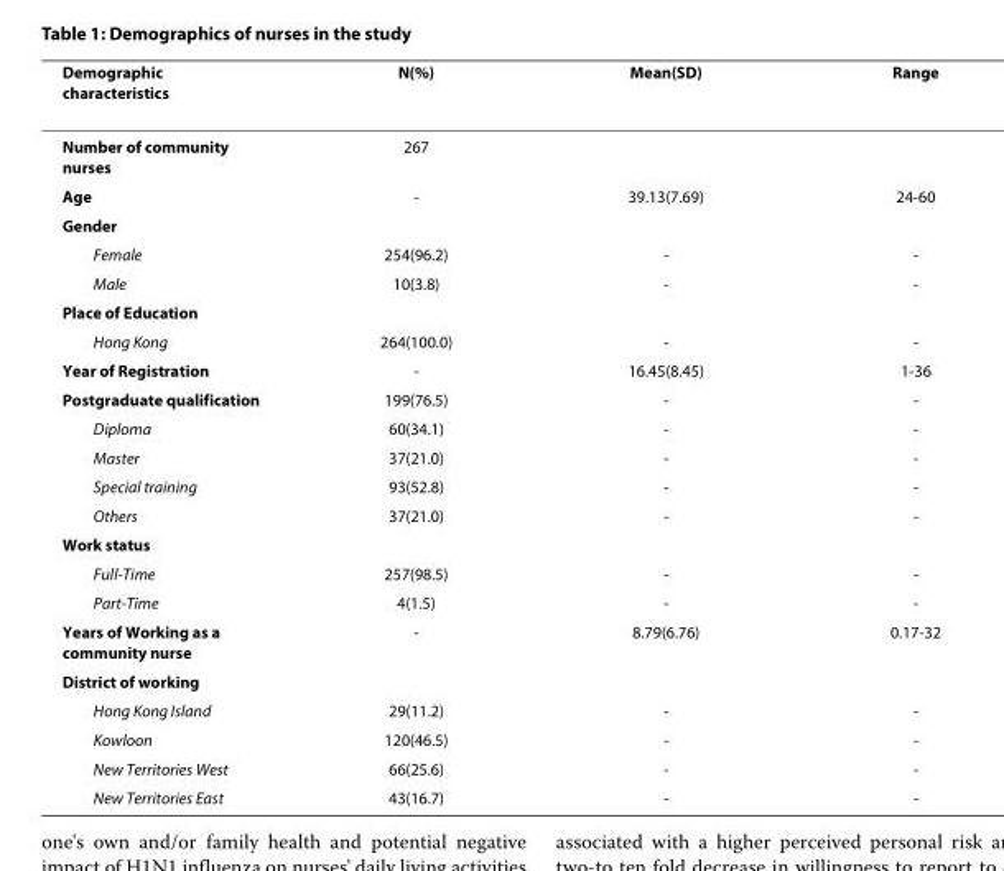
<table><thead><tr><td>Demographic characteristics</td><td>N(%)</td><td>Mean(SD)</td><td>Range</td></tr></thead><tbody><tr><td>Number of community nurses</td><td>267</td><td></td><td></td></tr><tr><td>Age</td><td>-</td><td>39.13(7.69)</td><td>24-60</td></tr><tr><td colspan="4">Gender</td></tr><tr><td>Female</td><td>254(96.2)</td><td>-</td><td>-</td></tr><tr><td>Male</td><td>10(3.8)</td><td>-</td><td>-</td></tr><tr><td colspan="4">Place of Education</td></tr><tr><td>Hong Kong</td><td>264(100.0)</td><td>-</td><td>-</td></tr><tr><td>Year of Registration</td><td>-</td><td>16.45(8.45)</td><td>1-36</td></tr><tr><td>Postgraduate qualification</td><td>199(76.5)</td><td>-</td><td>-</td></tr><tr><td>Diploma</td><td>60(34.1)</td><td>-</td><td>-</td></tr><tr><td>Master</td><td>37(21.0)</td><td>-</td><td>-</td></tr><tr><td>Special training</td><td>93(52.8)</td><td>-</td><td>-</td></tr><tr><td>Others</td><td>37(21.0)</td><td>-</td><td>-</td></tr><tr><td colspan="4">Work status</td></tr><tr><td>Full-Time</td><td>257(98.5)</td><td>-</td><td>-</td></tr><tr><td>Part-Time</td><td>4(1.5)</td><td>-</td><td>-</td></tr><tr><td>Years of Working as a community nurse</td><td>-</td><td>8.79(6.76)</td><td>0.17-32</td></tr><tr><td colspan="4">District of working</td></tr><tr><td>Hong Kong Island</td><td>29(11.2)</td><td>-</td><td>-</td></tr><tr><td>Kowloon</td><td>120(46.5)</td><td>-</td><td>-</td></tr><tr><td>New Territories West</td><td>66(25.6)</td><td>-</td><td>-</td></tr><tr><td>New Territories East</td><td>43(16.7)</td><td>-</td><td>-</td></tr></tbody></table>